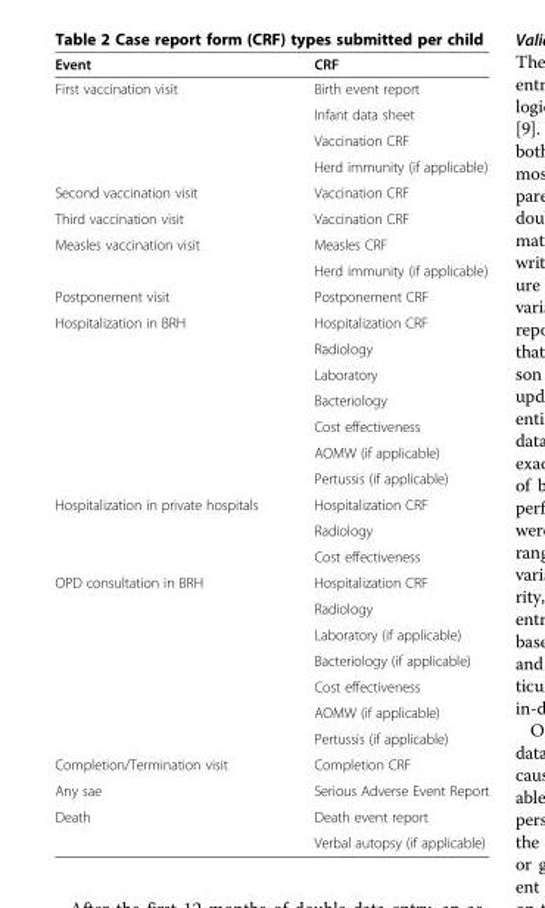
<table><thead><tr><td>Event</td><td>CRF</td></tr></thead><tbody><tr><td rowspan="4">First vaccination visit</td><td>Birth event report</td></tr><tr><td>Infant data sheet</td></tr><tr><td>Vaccination CRF</td></tr><tr><td>Herd immunity (if applicable)</td></tr><tr><td>Second vaccination visit</td><td>Vaccination CRF</td></tr><tr><td>Third vaccination visit</td><td>Vaccination CRF</td></tr><tr><td rowspan="2">Measles vaccination visit</td><td>Measles CRF</td></tr><tr><td>Herd immunity (if applicable)</td></tr><tr><td>Postponement visit</td><td>Postponement CRF</td></tr><tr><td rowspan="7">Hospitalization in BRH</td><td>Hospitalization CRF</td></tr><tr><td>Radiology</td></tr><tr><td>Laboratory</td></tr><tr><td>Bacteriology</td></tr><tr><td>Cost effectiveness</td></tr><tr><td>AOMW (if applicable)</td></tr><tr><td>Pertussis (if applicable)</td></tr><tr><td rowspan="3">Hospitalization in private hospitals</td><td>Hospitalization CRF</td></tr><tr><td>Radiology</td></tr><tr><td>Cost effectiveness</td></tr><tr><td rowspan="7">OPD consultation in BRH</td><td>Hospitalization CRF</td></tr><tr><td>Radiology</td></tr><tr><td>Laboratory (if applicable)</td></tr><tr><td>Bacteriology (if applicable)</td></tr><tr><td>Cost effectiveness</td></tr><tr><td>AOMW (if applicable)</td></tr><tr><td>Pertussis (if applicable)</td></tr><tr><td>Completion/Termination visit</td><td>Completion CRF</td></tr><tr><td>Any sae</td><td>Serious Adverse Event Report</td></tr><tr><td rowspan="2">Death</td><td>Death event report</td></tr><tr><td>Verbal autopsy (if applicable)</td></tr></tbody></table>